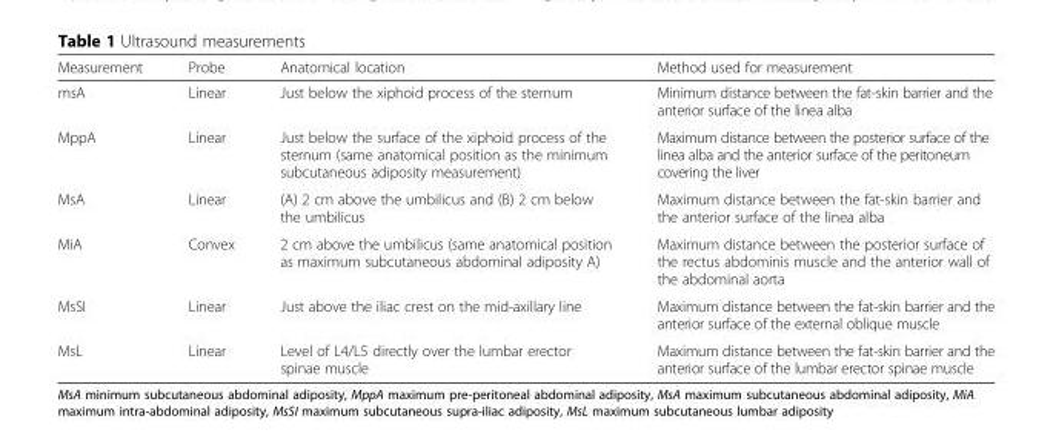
<table><thead><tr><td>Measurement</td><td>Probe</td><td>Anatomical location</td><td>Method used for measurement</td></tr></thead><tbody><tr><td>msA</td><td>Linear</td><td>Just below the xiphoid process of the sternum</td><td>Minimum distance between the fat-skin barrier and the anterior surface of the linea alba</td></tr><tr><td>MppA</td><td>Linear</td><td>Just below the surface of the xiphoid process of the sternum (same anatomical position as the minimum subcutaneous adiposity measurement)</td><td>Maximum distance between the posterior surface of the linea alba and the anterior surface of the peritoneum covering the liver</td></tr><tr><td>MsA</td><td>Linear</td><td>(A) 2 cm above the umbilicus and (B) 2 cm below the umbilicus</td><td>Maximum distance between the fat-skin barrier and the anterior surface of the linea alba</td></tr><tr><td>MiA</td><td>Convex</td><td>2 cm above the umbilicus (same anatomical position as maximum subcutaneous abdominal adiposity A)</td><td>Maximum distance between the posterior surface of the rectus abdominis muscle and the anterior wall of the abdominal aorta</td></tr><tr><td>MsSI</td><td>Linear</td><td>Just above the iliac crest on the mid-axillary line</td><td>Maximum distance between the fat-skin barrier and the anterior surface of the external oblique muscle</td></tr><tr><td>MsL</td><td>Linear</td><td>Level of L4/L5 directly over the lumbar erector spinae muscle</td><td>Maximum distance between the fat-skin barrier and the anterior surface of the lumbar erector spinae muscle</td></tr></tbody></table>